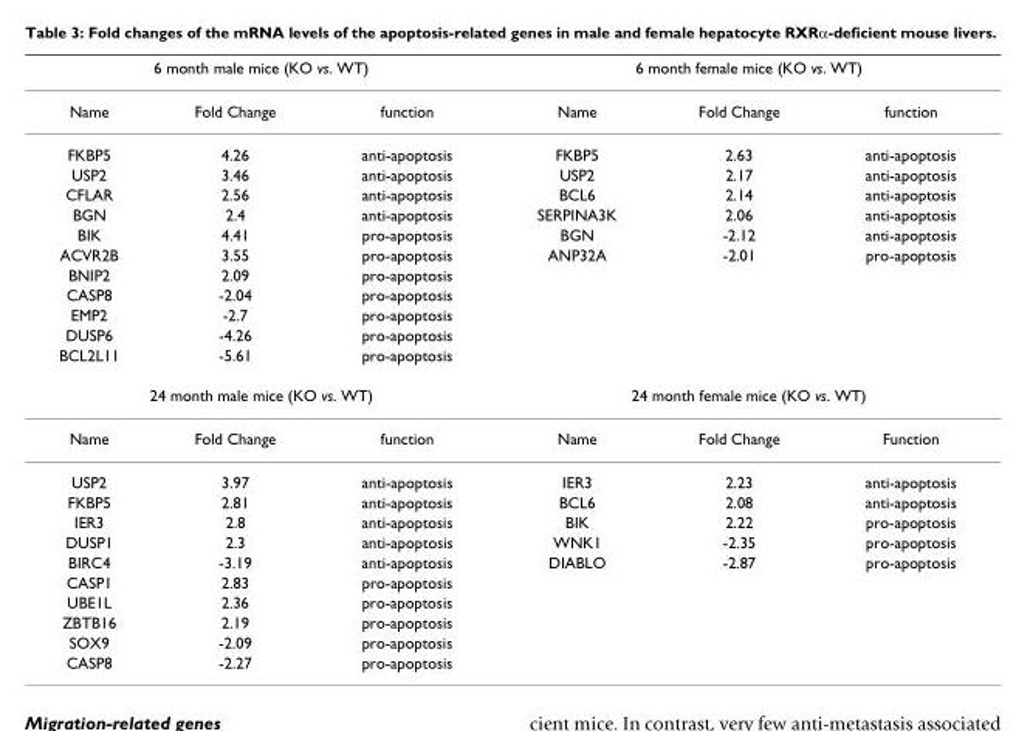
<table><thead><tr><td colspan="3">6 month male mice (KO vs. WT)</td><td colspan="3">6 month female mice (KO vs. WT)</td></tr><tr><td>Name</td><td>Fold Change</td><td>function</td><td>Name</td><td>Fold Change</td><td>function</td></tr></thead><tbody><tr><td>FKBP5</td><td>4.26</td><td>anti-apoptosis</td><td>FKBP5</td><td>2.63</td><td>anti-apoptosis</td></tr><tr><td>USP2</td><td>3.46</td><td>anti-apoptosis</td><td>USP2</td><td>2.17</td><td>anti-apoptosis</td></tr><tr><td>CFLAR</td><td>2.56</td><td>anti-apoptosis</td><td>BCL6</td><td>2.14</td><td>anti-apoptosis</td></tr><tr><td>BGN</td><td>2.4</td><td>anti-apoptosis</td><td>SERPINA3K</td><td>2.06</td><td>anti-apoptosis</td></tr><tr><td>BIK</td><td>4.41</td><td>pro-apoptosis</td><td>BGN</td><td>-2.12</td><td>anti-apoptosis</td></tr><tr><td>ACVR2B</td><td>3.55</td><td>pro-apoptosis</td><td>ANP32A</td><td>-2.01</td><td>pro-apoptosis</td></tr><tr><td>BNIP2</td><td>2.09</td><td>pro-apoptosis</td><td></td><td></td><td></td></tr><tr><td>CASP8</td><td>-2.04</td><td>pro-apoptosis</td><td></td><td></td><td></td></tr><tr><td>EMP2</td><td>-2.7</td><td>pro-apoptosis</td><td></td><td></td><td></td></tr><tr><td>DUSP6</td><td>-4.26</td><td>pro-apoptosis</td><td></td><td></td><td></td></tr><tr><td>BCL2L11</td><td>-5.61</td><td>pro-apoptosis</td><td></td><td></td><td></td></tr><tr><td colspan="3">24 month male mice (KO vs. WT)</td><td colspan="3">24 month female mice (KO vs. WT)</td></tr><tr><td>Name</td><td>Fold Change</td><td>function</td><td>Name</td><td>Fold Change</td><td>Function</td></tr><tr><td>USP2</td><td>3.97</td><td>anti-apoptosis</td><td>IER3</td><td>2.23</td><td>anti-apoptosis</td></tr><tr><td>FKBP5</td><td>2.81</td><td>anti-apoptosis</td><td>BCL6</td><td>2.08</td><td>anti-apoptosis</td></tr><tr><td>IER3</td><td>2.8</td><td>anti-apoptosis</td><td>BIK</td><td>2.22</td><td>pro-apoptosis</td></tr><tr><td>DUSP1</td><td>2.3</td><td>anti-apoptosis</td><td>WNK1</td><td>-2.35</td><td>pro-apoptosis</td></tr><tr><td>BIRC4</td><td>-3.19</td><td>anti-apoptosis</td><td>DIABLO</td><td>-2.87</td><td>pro-apoptosis</td></tr><tr><td>CASP1</td><td>2.83</td><td>pro-apoptosis</td><td></td><td></td><td></td></tr><tr><td>UBE1L</td><td>2.36</td><td>pro-apoptosis</td><td></td><td></td><td></td></tr><tr><td>ZBTB16</td><td>2.19</td><td>pro-apoptosis</td><td></td><td></td><td></td></tr><tr><td>SOX9</td><td>-2.09</td><td>pro-apoptosis</td><td></td><td></td><td></td></tr><tr><td>CASP8</td><td>-2.27</td><td>pro-apoptosis</td><td></td><td></td><td></td></tr></tbody></table>